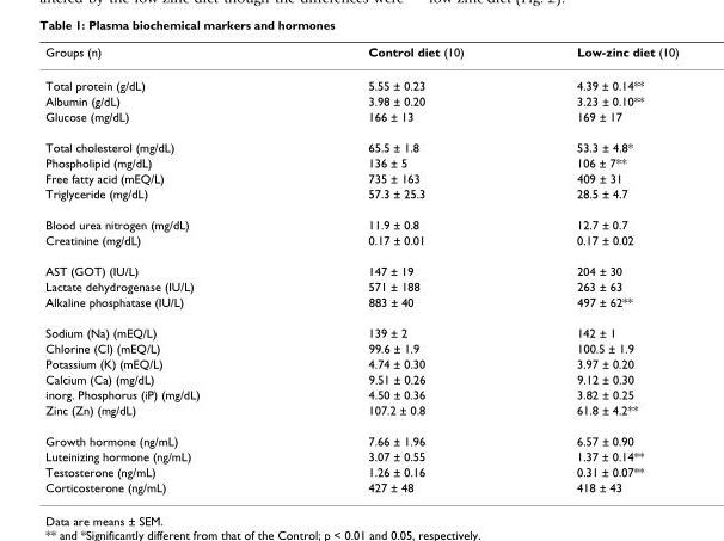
<table><thead><tr><td>Groups (n)</td><td>Control diet (10)</td><td>Low-zinc diet (10)</td></tr></thead><tbody><tr><td>Total protein (g/dL)</td><td>5.55 ± 0.23</td><td>4.39 ± 0.14**</td></tr><tr><td>Albumin (g/dL)</td><td>3.98 ± 0.20</td><td>3.23 ± 0.10**</td></tr><tr><td>Glucose (mg/dL)</td><td>166 ± 13</td><td>169 ± 17</td></tr><tr><td>Total cholesterol (mg/dL)</td><td>65.5 ± 1.8</td><td>53.3 ± 4.8*</td></tr><tr><td>Phospholipid (mg/dL)</td><td>136 ± 5</td><td>106 ± 7**</td></tr><tr><td>Free fatty acid (mEQ/L)</td><td>735 ± 163</td><td>409 ± 31</td></tr><tr><td>Triglyceride (mg/dL)</td><td>57.3 ± 25.3</td><td>28.5 ± 4.7</td></tr><tr><td>Blood urea nitrogen (mg/dL)</td><td>11.9 ± 0.8</td><td>12.7 ± 0.7</td></tr><tr><td>Creatinine (mg/dL)</td><td>0.17 ± 0.01</td><td>0.17 ± 0.02</td></tr><tr><td>AST (GOT) (IU/L)</td><td>147 ± 19</td><td>204 ± 30</td></tr><tr><td>Lactate dehydrogenase (IU/L)</td><td>571 ± 188</td><td>263 ± 63</td></tr><tr><td>Alkaline phosphatase (IU/L)</td><td>883 ± 40</td><td>497 ± 62**</td></tr><tr><td>Sodium (Na) (mEQ/L)</td><td>139 ± 2</td><td>142 ± 1</td></tr><tr><td>Chlorine (Cl) (mEQ/L)</td><td>99.6 ± 1.9</td><td>100.5 ± 1.9</td></tr><tr><td>Potassium (K) (mEQ/L)</td><td>4.74 ± 0.30</td><td>3.97 ± 0.20</td></tr><tr><td>Calcium (Ca) (mg/dL)</td><td>9.51 ± 0.26</td><td>9.12 ± 0.30</td></tr><tr><td>inorg. Phosphorus (iP) (mg/dL)</td><td>4.50 ± 0.36</td><td>3.82 ± 0.25</td></tr><tr><td>Zinc (Zn) (mg/dL)</td><td>107.2 ± 0.8</td><td>61.8 ± 4.2**</td></tr><tr><td>Growth hormone (ng/mL)</td><td>7.66 ± 1.96</td><td>6.57 ± 0.90</td></tr><tr><td>Luteinizing hormone (ng/mL)</td><td>3.07 ± 0.55</td><td>1.37 ± 0.14**</td></tr><tr><td>Testosterone (ng/mL)</td><td>1.26 ± 0.16</td><td>0.31 ± 0.07**</td></tr><tr><td>Corticosterone (ng/mL)</td><td>427 ± 48</td><td>418 ± 43</td></tr></tbody></table>